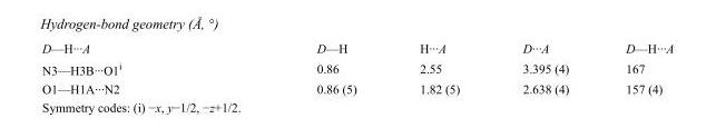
<table><tbody><tr><td>D—H···A</td><td>D—H</td><td>H···A</td><td>D···A</td><td>D—H···A</td></tr><tr><td>N3—H3B···O1<sup>i</sup></td><td>0.86</td><td>2.55</td><td>3.395 (4)</td><td>167</td></tr><tr><td>O1—H1A···N2</td><td>0.86 (5)</td><td>1.82 (5)</td><td>2.638 (4)</td><td>157 (4)</td></tr></tbody></table>